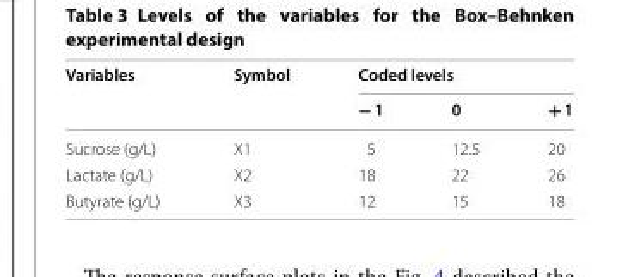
<table><thead><tr><td rowspan="2">Variables</td><td rowspan="2">Symbol</td><td colspan="3">Coded levels</td></tr><tr><td>− 1</td><td>0</td><td>+ 1</td></tr></thead><tbody><tr><td>Sucrose (g/L)</td><td>X1</td><td>5</td><td>12.5</td><td>20</td></tr><tr><td>Lactate (g/L)</td><td>X2</td><td>18</td><td>22</td><td>26</td></tr><tr><td>Butyrate (g/L)</td><td>X3</td><td>12</td><td>15</td><td>18</td></tr></tbody></table>